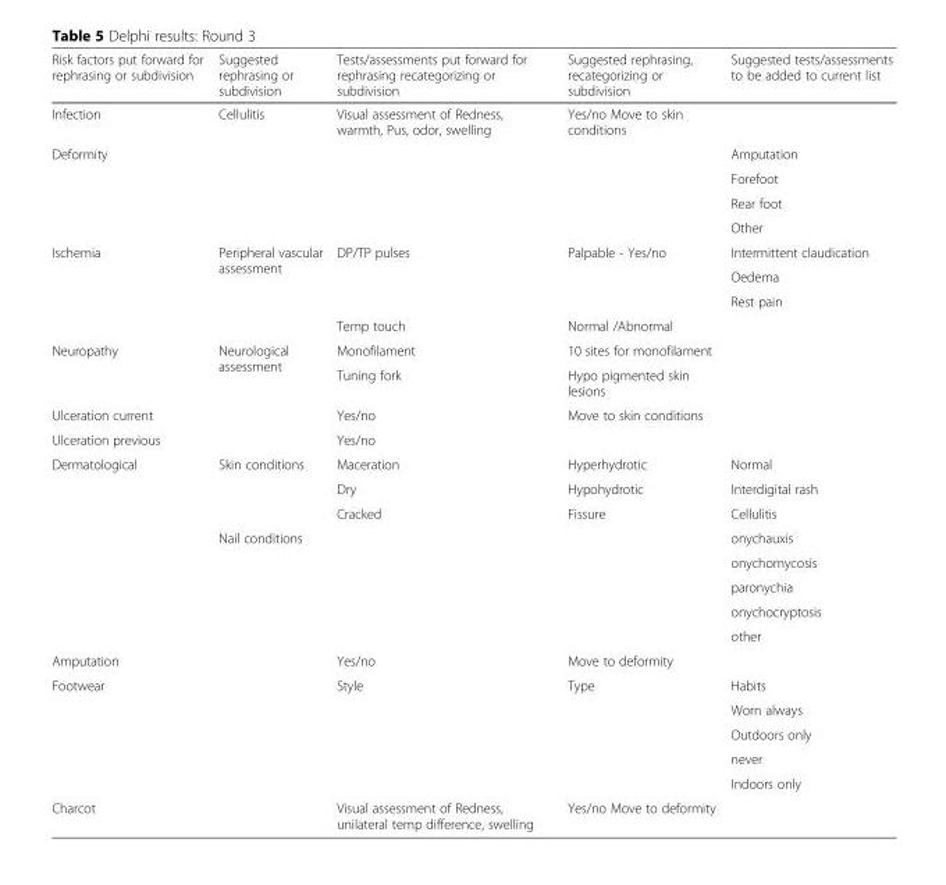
<table><thead><tr><td>Risk factors put forward for rephrasing or subdivision</td><td>Suggested rephrasing or subdivision</td><td>Tests/assessments put forward for rephrasing recategorizing or subdivision</td><td>Suggested rephrasing, recategorizing or subdivision</td><td>Suggested tests/assessments to be added to current list</td></tr></thead><tbody><tr><td>Infection</td><td>Cellulitis</td><td>Visual assessment of Redness, warmth, Pus, odor, swelling</td><td>Yes/no Move to skin conditions</td><td></td></tr><tr><td rowspan="4">Deformity</td><td rowspan="4" colspan="3"></td><td>Amputation</td></tr><tr><td>Forefoot</td></tr><tr><td>Rear foot</td></tr><tr><td>Other</td></tr><tr><td rowspan="4">Ischemia</td><td rowspan="4">Peripheral vascular assessment</td><td rowspan="3">DP/TP pulses</td><td rowspan="3">Palpable - Yes/no</td><td>Intermittent claudication</td></tr><tr><td>Oedema</td></tr><tr><td>Rest pain</td></tr><tr><td>Temp touch</td><td>Normal /Abnormal</td><td></td></tr><tr><td rowspan="2">Neuropathy</td><td rowspan="2">Neurological assessment</td><td>Monofilament</td><td>10 sites for monofilament</td><td></td></tr><tr><td>Tuning fork</td><td>Hypo pigmented skin lesions</td><td></td></tr><tr><td>Ulceration current</td><td></td><td>Yes/no</td><td rowspan="2">Move to skin conditions</td><td></td></tr><tr><td>Ulceration previous</td><td></td><td>Yes/no</td><td></td></tr><tr><td rowspan="8">Dermatological</td><td rowspan="3">Skin conditions</td><td>Maceration</td><td>Hyperhydrotic</td><td>Normal</td></tr><tr><td>Dry</td><td>Hypohydrotic</td><td>Interdigital rash</td></tr><tr><td>Cracked</td><td>Fissure</td><td>Cellulitis</td></tr><tr><td rowspan="5">Nail conditions</td><td rowspan="5" colspan="2"></td><td>onychauxis</td></tr><tr><td>onychomycosis</td></tr><tr><td>paronychia</td></tr><tr><td>onychocryptosis</td></tr><tr><td>other</td></tr><tr><td>Amputation</td><td></td><td>Yes/no</td><td>Move to deformity</td><td></td></tr><tr><td rowspan="5">Footwear</td><td rowspan="5"></td><td rowspan="5">Style</td><td rowspan="5">Type</td><td>Habits</td></tr><tr><td>Worn always</td></tr><tr><td>Outdoors only</td></tr><tr><td>never</td></tr><tr><td>Indoors only</td></tr><tr><td>Charcot</td><td></td><td>Visual assessment of Redness, unilateral temp difference, swelling</td><td>Yes/no Move to deformity</td><td></td></tr></tbody></table>